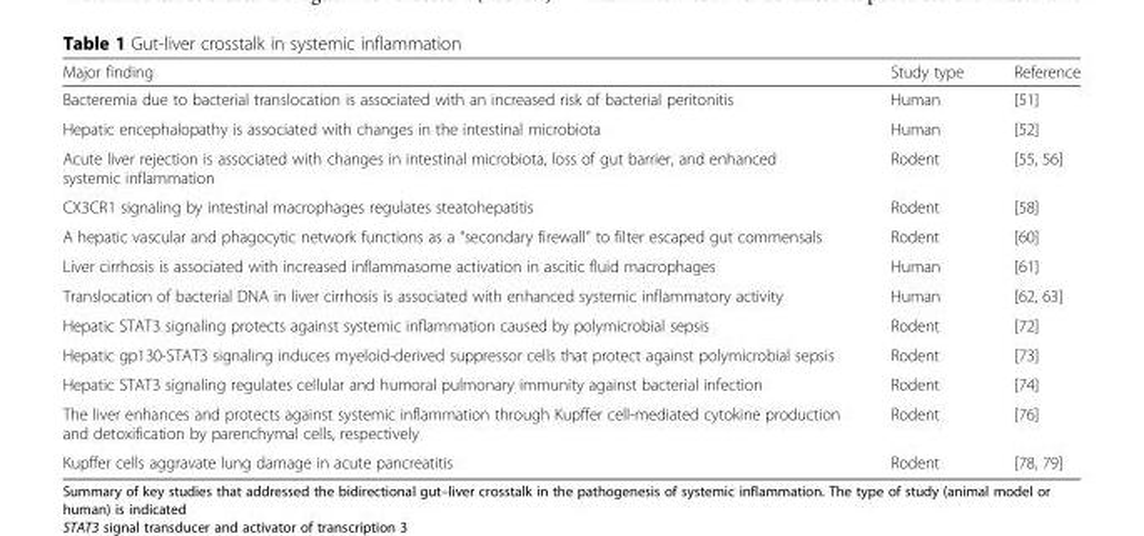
<table><thead><tr><td>Major finding</td><td>Study type</td><td>Reference</td></tr></thead><tbody><tr><td>Bacteremia due to bacterial translocation is associated with an increased risk of bacterial peritonitis</td><td>Human</td><td>[51]</td></tr><tr><td>Hepatic encephalopathy is associated with changes in the intestinal microbiota</td><td>Human</td><td>[52]</td></tr><tr><td>Acute liver rejection is associated with changes in intestinal microbiota, loss of gut barrier, and enhanced systemic inflammation</td><td>Rodent</td><td>[55, 56]</td></tr><tr><td>CX3CR1 signaling by intestinal macrophages regulates steatohepatitis</td><td>Rodent</td><td>[58]</td></tr><tr><td>A hepatic vascular and phagocytic network functions as a “secondary firewall” to filter escaped gut commensals</td><td>Rodent</td><td>[60]</td></tr><tr><td>Liver cirrhosis is associated with increased inflammasome activation in ascitic fluid macrophages</td><td>Human</td><td>[61]</td></tr><tr><td>Translocation of bacterial DNA in liver cirrhosis is associated with enhanced systemic inflammatory activity</td><td>Human</td><td>[62, 63]</td></tr><tr><td>Hepatic STAT3 signaling protects against systemic inflammation caused by polymicrobial sepsis</td><td>Rodent</td><td>[72]</td></tr><tr><td>Hepatic gp130-STAT3 signaling induces myeloid-derived suppressor cells that protect against polymicrobial sepsis</td><td>Rodent</td><td>[73]</td></tr><tr><td>Hepatic STAT3 signaling regulates cellular and humoral pulmonary immunity against bacterial infection</td><td>Rodent</td><td>[74]</td></tr><tr><td>The liver enhances and protects against systemic inflammation through Kupffer cell-mediated cytokine production and detoxification by parenchymal cells, respectively</td><td>Rodent</td><td>[76]</td></tr><tr><td>Kupffer cells aggravate lung damage in acute pancreatitis</td><td>Rodent</td><td>[78, 79]</td></tr></tbody></table>